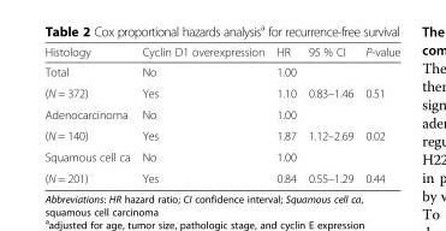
<table><thead><tr><td>Histology</td><td>Cyclin D1 overexpression</td><td>HR</td><td>95 % CI</td><td>P-value</td></tr></thead><tbody><tr><td>Total</td><td>No</td><td>1.00</td><td></td><td></td></tr><tr><td>(N = 372)</td><td>Yes</td><td>1.10</td><td>0.83–1.46</td><td>0.51</td></tr><tr><td>Adenocarcinoma</td><td>No</td><td>1.00</td><td></td><td></td></tr><tr><td>(N = 140)</td><td>Yes</td><td>1.87</td><td>1.12–2.69</td><td>0.02</td></tr><tr><td>Squamous cell ca</td><td>No</td><td>1.00</td><td></td><td></td></tr><tr><td>(N = 201)</td><td>Yes</td><td>0.84</td><td>0.55–1.29</td><td>0.44</td></tr></tbody></table>